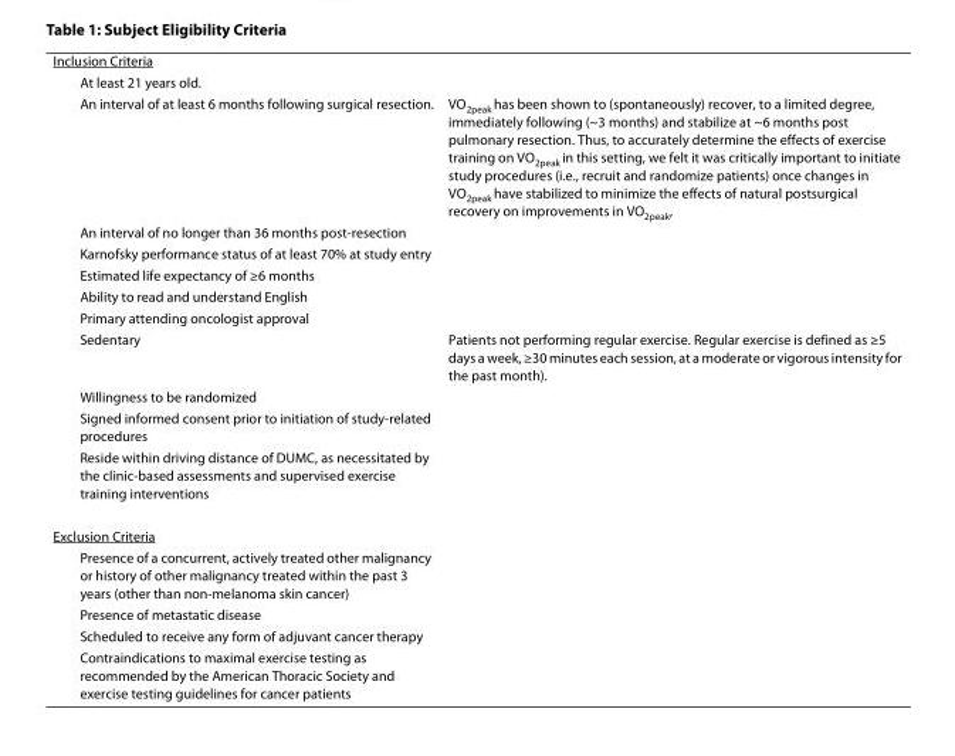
<table><tbody><tr><td colspan="2">Inclusion Criteria</td></tr><tr><td colspan="2">At least 21 years old.</td></tr><tr><td>An interval of at least 6 months following surgical resection.</td><td>VO<sub>2peak</sub> has been shown to (spontaneously) recover, to a limited degree, immediately following (~3 months) and stabilize at ~6 months post pulmonary resection. Thus, to accurately determine the effects of exercise training on VO<sub>2peak</sub> in this setting, we felt it was critically important to initiate study procedures (i.e., recruit and randomize patients) once changes in VO<sub>2peak</sub> have stabilized to minimize the effects of natural postsurgical recovery on improvements in VO<sub>2peak</sub>,</td></tr><tr><td colspan="2">An interval of no longer than 36 months post-resection</td></tr><tr><td colspan="2">Karnofsky performance status of at least 70% at study entry</td></tr><tr><td colspan="2">Estimated life expectancy of ≥6 months</td></tr><tr><td colspan="2">Ability to read and understand English</td></tr><tr><td colspan="2">Primary attending oncologist approval</td></tr><tr><td>Sedentary</td><td>Patients not performing regular exercise. Regular exercise is defined as ≥5 days a week, ≥30 minutes each session, at a moderate or vigorous intensity for the past month).</td></tr><tr><td colspan="2">Willingness to be randomized</td></tr><tr><td colspan="2">Signed informed consent prior to initiation of study-related procedures</td></tr><tr><td colspan="2">Reside within driving distance of DUMC, as necessitated by the clinic-based assessments and supervised exercise training interventions</td></tr><tr><td colspan="2">Exclusion Criteria</td></tr><tr><td colspan="2">Presence of a concurrent, actively treated other malignancy or history of other malignancy treated within the past 3 years (other than non-melanoma skin cancer)</td></tr><tr><td colspan="2">Presence of metastatic disease</td></tr><tr><td colspan="2">Scheduled to receive any form of adjuvant cancer therapy</td></tr><tr><td>Contraindications to maximal exercise testing as recommended by the American Thoracic Society and exercise testing guidelines for cancer patients</td><td></td></tr></tbody></table>